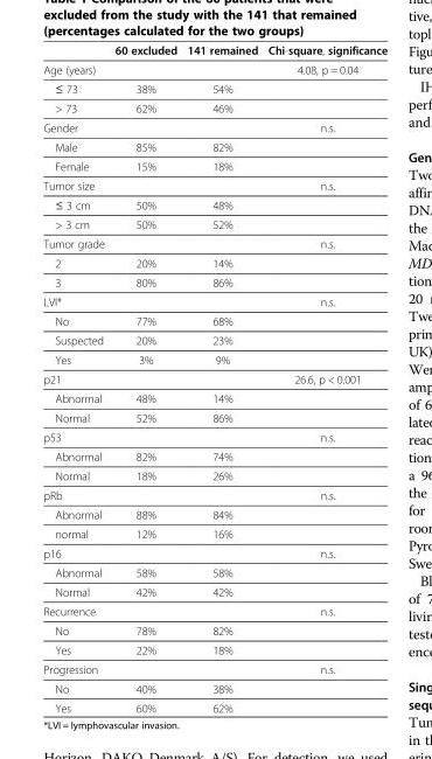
<table><thead><tr><td></td><td>60 excluded</td><td>141 remained</td><td>Chi-square, significance</td></tr></thead><tbody><tr><td>Age (years)</td><td></td><td></td><td>4.08, p = 0.04</td></tr><tr><td>≤ 73</td><td>38%</td><td>54%</td><td></td></tr><tr><td>&gt; 73</td><td>62%</td><td>46%</td><td></td></tr><tr><td>Gender</td><td></td><td></td><td>n.s.</td></tr><tr><td>Male</td><td>85%</td><td>82%</td><td></td></tr><tr><td>Female</td><td>15%</td><td>18%</td><td></td></tr><tr><td>Tumor size</td><td></td><td></td><td>n.s.</td></tr><tr><td>≤ 3 cm</td><td>50%</td><td>48%</td><td></td></tr><tr><td>&gt; 3 cm</td><td>50%</td><td>52%</td><td></td></tr><tr><td>Tumor grade</td><td></td><td></td><td>n.s.</td></tr><tr><td>2</td><td>20%</td><td>14%</td><td></td></tr><tr><td>3</td><td>80%</td><td>86%</td><td></td></tr><tr><td>LVI*</td><td></td><td></td><td>n.s.</td></tr><tr><td>No</td><td>77%</td><td>68%</td><td></td></tr><tr><td>Suspected</td><td>20%</td><td>23%</td><td></td></tr><tr><td>Yes</td><td>3%</td><td>9%</td><td></td></tr><tr><td>p21</td><td></td><td></td><td>26.6, p &lt; 0.001</td></tr><tr><td>Abnormal</td><td>48%</td><td>14%</td><td></td></tr><tr><td>Normal</td><td>52%</td><td>86%</td><td></td></tr><tr><td>p53</td><td></td><td></td><td>n.s.</td></tr><tr><td>Abnormal</td><td>82%</td><td>74%</td><td></td></tr><tr><td>Normal</td><td>18%</td><td>26%</td><td></td></tr><tr><td>pRb</td><td></td><td></td><td>n.s.</td></tr><tr><td>Abnormal</td><td>88%</td><td>84%</td><td></td></tr><tr><td>normal</td><td>12%</td><td>16%</td><td></td></tr><tr><td>p16</td><td></td><td></td><td>n.s.</td></tr><tr><td>Abnormal</td><td>58%</td><td>58%</td><td></td></tr><tr><td>Normal</td><td>42%</td><td>42%</td><td></td></tr><tr><td>Recurrence</td><td></td><td></td><td>n.s.</td></tr><tr><td>No</td><td>78%</td><td>82%</td><td></td></tr><tr><td>Yes</td><td>22%</td><td>18%</td><td></td></tr><tr><td>Progression</td><td></td><td></td><td>n.s.</td></tr><tr><td>No</td><td>40%</td><td>38%</td><td></td></tr><tr><td>Yes</td><td>60%</td><td>62%</td><td></td></tr></tbody></table>